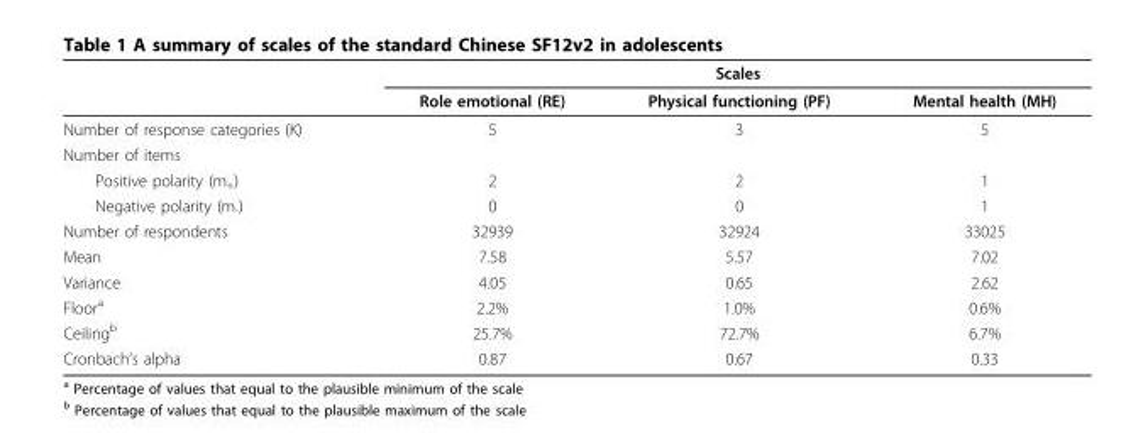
<table><thead><tr><td rowspan="2"></td><td colspan="3">Scales</td></tr><tr><td>Role emotional (RE)</td><td>Physical functioning (PF)</td><td>Mental health (MH)</td></tr></thead><tbody><tr><td>Number of response categories (K)</td><td>5</td><td>3</td><td>5</td></tr><tr><td colspan="4">Number of items</td></tr><tr><td>Positive polarity (m<sub>+</sub>)</td><td>2</td><td>2</td><td>1</td></tr><tr><td>Negative polarity (m<sub>-</sub>)</td><td>0</td><td>0</td><td>1</td></tr><tr><td>Number of respondents</td><td>32939</td><td>32924</td><td>33025</td></tr><tr><td>Mean</td><td>7.58</td><td>5.57</td><td>7.02</td></tr><tr><td>Variance</td><td>4.05</td><td>0.65</td><td>2.62</td></tr><tr><td>Floor<sup>a</sup></td><td>2.2%</td><td>1.0%</td><td>0.6%</td></tr><tr><td>Ceiling<sup>b</sup></td><td>25.7%</td><td>72.7%</td><td>6.7%</td></tr><tr><td>Cronbach’s alpha</td><td>0.87</td><td>0.67</td><td>0.33</td></tr></tbody></table>